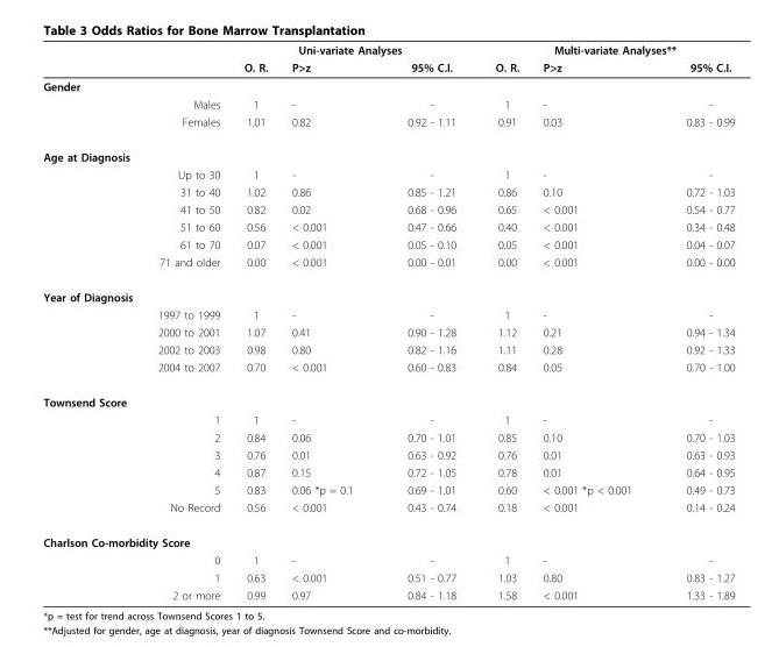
<table><thead><tr><td rowspan="2"></td><td colspan="3">Uni-variate Analyses</td><td colspan="3">Multi-variate Analyses**</td></tr><tr><td>O. R.</td><td>P&gt;z</td><td>95% C.I.</td><td>O. R.</td><td>P&gt;z</td><td>95% C.I.</td></tr></thead><tbody><tr><td colspan="7">Gender</td></tr><tr><td>Males</td><td>1</td><td>-</td><td>-</td><td>1</td><td>-</td><td>-</td></tr><tr><td>Females</td><td>1.01</td><td>0.82</td><td>0.92 - 1.11</td><td>0.91</td><td>0.03</td><td>0.83 - 0.99</td></tr><tr><td colspan="7">Age at Diagnosis</td></tr><tr><td>Up to 30</td><td>1</td><td>-</td><td>-</td><td>1</td><td>-</td><td>-</td></tr><tr><td>31 to 40</td><td>1.02</td><td>0.86</td><td>0.85 - 1.21</td><td>0.86</td><td>0.10</td><td>0.72 - 1.03</td></tr><tr><td>41 to 50</td><td>0.82</td><td>0.02</td><td>0.68 - 0.96</td><td>0.65</td><td>&lt; 0.001</td><td>0.54 - 0.77</td></tr><tr><td>51 to 60</td><td>0.56</td><td>&lt; 0.001</td><td>0.47 - 0.66</td><td>0.40</td><td>&lt; 0.001</td><td>0.34 - 0.48</td></tr><tr><td>61 to 70</td><td>0.07</td><td>&lt; 0.001</td><td>0.05 - 0.10</td><td>0.05</td><td>&lt; 0.001</td><td>0.04 - 0.07</td></tr><tr><td>71 and older</td><td>0.00</td><td>&lt; 0.001</td><td>0.00 - 0.01</td><td>0.00</td><td>&lt; 0.001</td><td>0.00 - 0.00</td></tr><tr><td colspan="7">Year of Diagnosis</td></tr><tr><td>1997 to 1999</td><td>1</td><td>-</td><td>-</td><td>1</td><td>-</td><td>-</td></tr><tr><td>2000 to 2001</td><td>1.07</td><td>0.41</td><td>0.90 - 1.28</td><td>1.12</td><td>0.21</td><td>0.94 - 1.34</td></tr><tr><td>2002 to 2003</td><td>0.98</td><td>0.80</td><td>0.82 - 1.16</td><td>1.11</td><td>0.28</td><td>0.92 - 1.33</td></tr><tr><td>2004 to 2007</td><td>0.70</td><td>&lt; 0.001</td><td>0.60 - 0.83</td><td>0.84</td><td>0.05</td><td>0.70 - 1.00</td></tr><tr><td colspan="7">Townsend Score</td></tr><tr><td>1</td><td>1</td><td>-</td><td>-</td><td>1</td><td>-</td><td>-</td></tr><tr><td>2</td><td>0.84</td><td>0.06</td><td>0.70 - 1.01</td><td>0.85</td><td>0.10</td><td>0.70 - 1.03</td></tr><tr><td>3</td><td>0.76</td><td>0.01</td><td>0.63 - 0.92</td><td>0.76</td><td>0.01</td><td>0.63 - 0.93</td></tr><tr><td>4</td><td>0.87</td><td>0.15</td><td>0.72 - 1.05</td><td>0.78</td><td>0.01</td><td>0.64 - 0.95</td></tr><tr><td>5</td><td>0.83</td><td>0.06 *p = 0.1</td><td>0.69 - 1.01</td><td>0.60</td><td>&lt; 0.001 *p &lt; 0.001</td><td>0.49 - 0.73</td></tr><tr><td>No Record</td><td>0.56</td><td>&lt; 0.001</td><td>0.43 - 0.74</td><td>0.18</td><td>&lt; 0.001</td><td>0.14 - 0.24</td></tr><tr><td colspan="7">Charlson Co-morbidity Score</td></tr><tr><td>0</td><td>1</td><td>-</td><td>-</td><td>1</td><td>-</td><td>-</td></tr><tr><td>1</td><td>0.63</td><td>&lt; 0.001</td><td>0.51 - 0.77</td><td>1.03</td><td>0.80</td><td>0.83 - 1.27</td></tr><tr><td>2 or more</td><td>0.99</td><td>0.97</td><td>0.84 - 1.18</td><td>1.58</td><td>&lt; 0.001</td><td>1.33 - 1.89</td></tr></tbody></table>